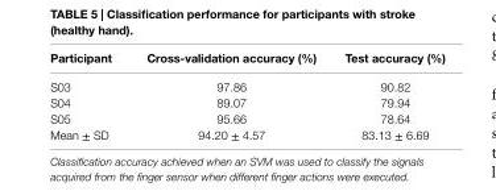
<table><thead><tr><td>Participant</td><td>cross-validation accuracy (%)</td><td>Test accuracy (%)</td></tr></thead><tbody><tr><td>S03</td><td>97.86</td><td>90.82</td></tr><tr><td>S04</td><td>89.07</td><td>79.94</td></tr><tr><td>S05</td><td>95.66</td><td>78.64</td></tr><tr><td>Mean ± SD</td><td>94.20 ± 4.57</td><td>83.13 ± 6.69</td></tr></tbody></table>